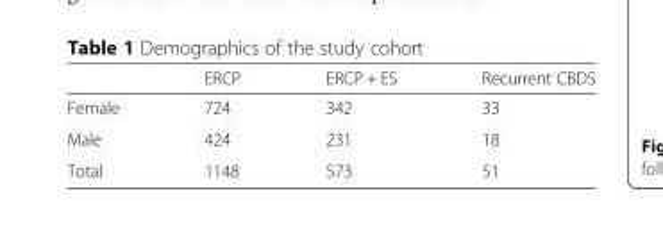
<table><thead><tr><td></td><td>ERCP</td><td>ERCP + ES</td><td>Recurrent CBDS</td></tr></thead><tbody><tr><td>Female</td><td>724</td><td>342</td><td>33</td></tr><tr><td>Male</td><td>424</td><td>231</td><td>18</td></tr><tr><td>Total</td><td>1148</td><td>573</td><td>51</td></tr></tbody></table>